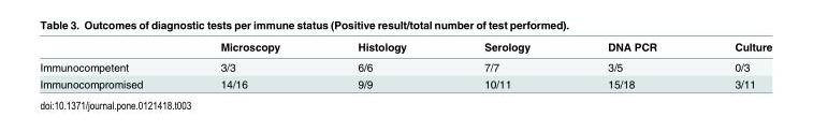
<table><thead><tr><td></td><td>Microscopy</td><td>Histology</td><td>Serology</td><td>DNA PCR</td><td>Culture</td></tr></thead><tbody><tr><td>Immunocompetent</td><td>3/3</td><td>6/6</td><td>7/7</td><td>3/5</td><td>0/3</td></tr><tr><td>Immunocompromised</td><td>14/16</td><td>9/9</td><td>10/11</td><td>15/18</td><td>3/11</td></tr></tbody></table>